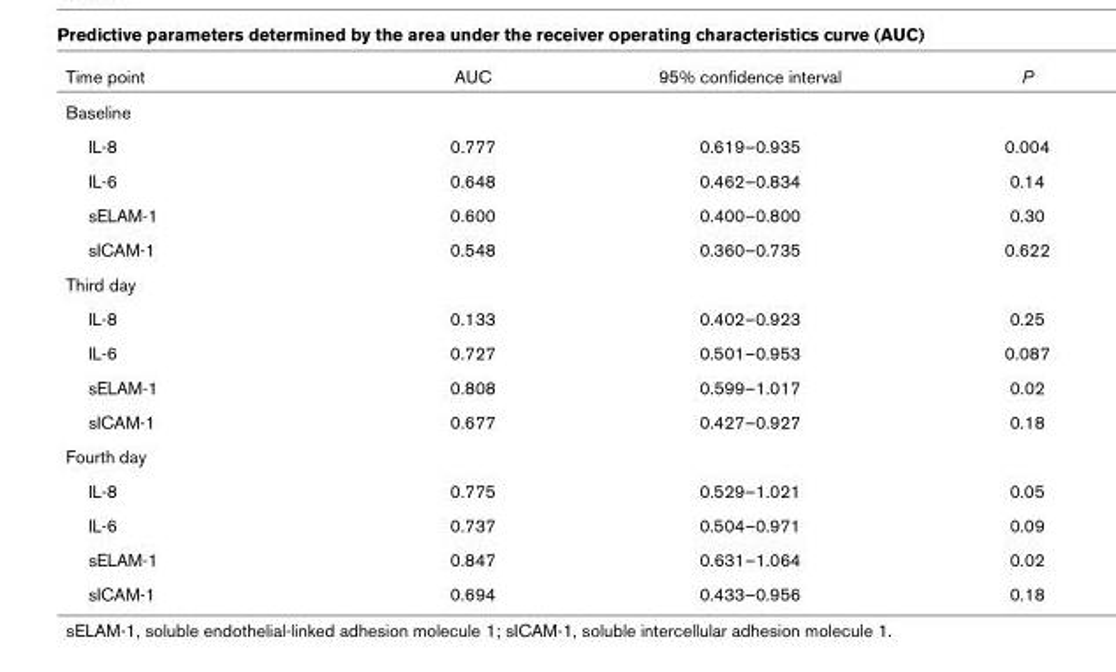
<table><thead><tr><td>Time point</td><td>AUC</td><td>95% confidence interval</td><td>P</td></tr></thead><tbody><tr><td colspan="4">Baseline</td></tr><tr><td>IL-8</td><td>0.777</td><td>0.619–0.935</td><td>0.004</td></tr><tr><td>IL-6</td><td>0.648</td><td>0.462–0.834</td><td>0.14</td></tr><tr><td>sELAM-1</td><td>0.600</td><td>0.400–0.800</td><td>0.30</td></tr><tr><td>sICAM-1</td><td>0.548</td><td>0.360–0.735</td><td>0.622</td></tr><tr><td colspan="4">Third day</td></tr><tr><td>IL-8</td><td>0.133</td><td>0.402–0.923</td><td>0.25</td></tr><tr><td>IL-6</td><td>0.727</td><td>0.501–0.953</td><td>0.087</td></tr><tr><td>sELAM-1</td><td>0.808</td><td>0.599–1.017</td><td>0.02</td></tr><tr><td>sICAM-1</td><td>0.677</td><td>0.427–0.927</td><td>0.18</td></tr><tr><td colspan="4">Fourth day</td></tr><tr><td>IL-8</td><td>0.775</td><td>0.529–1.021</td><td>0.05</td></tr><tr><td>IL-6</td><td>0.737</td><td>0.504–0.971</td><td>0.09</td></tr><tr><td>sELAM-1</td><td>0.847</td><td>0.631–1.064</td><td>0.02</td></tr><tr><td>sICAM-1</td><td>0.694</td><td>0.433–0.956</td><td>0.18</td></tr></tbody></table>